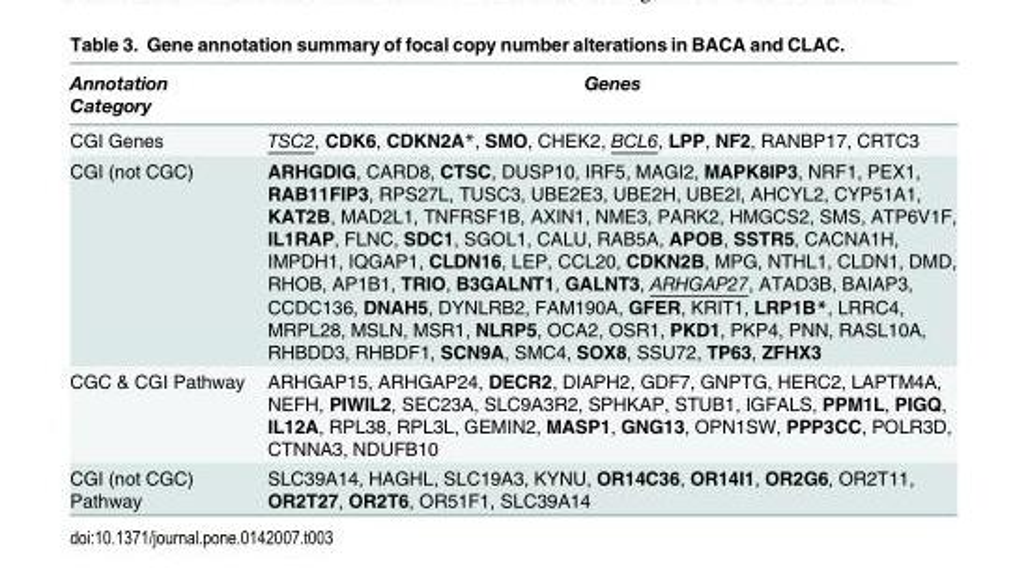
<table><thead><tr><td>Annotation Category</td><td>Genes</td></tr></thead><tbody><tr><td>CGI Genes</td><td>TSC2, CDK6, CDKN2A*, SMO, CHEK2, BCL6, LPP, NF2, RANBP17, CRTC3</td></tr><tr><td>CGI (not CGC)</td><td>ARHGDIG, CARD8, CTSC, DUSP10, IRF5, MAGI2, MAPK8IP3, NRF1, PEX1, RAB11FIP3, RPS27L, TUSC3, UBE2E3, UBE2H, UBE2I, AHCYL2, CYP51A1, KAT2B, MAD2L1, TNFRSF1B, AXIN1, NME3, PARK2, HMGCS2, SMS, ATP6V1F, IL1RAP, FLNC, SDC1, SGOL1, CALU, RAB5A, APOB, SSTR5, CACNA1H, IMPDH1, IQGAP1, CLDN16, LEP, CCL20, CDKN2B, MPG, NTHL1, CLDN1, DMD, RHOB, AP1B1, TRIO, B3GALNT1, GALNT3, ARHGAP27, ATAD3B, BAIAP3, CCDC136, DNAH5, DYNLRB2, FAM190A, GFER, KRIT1, LRP1B*, LRRC4, MRPL28, MSLN, MSR1, NLRP5, OCA2, OSR1, PKD1, PKP4, PNN, RASL10A, RHBDD3, RHBDF1, SCN9A, SMC4, SOX8, SSU72, TP63, ZFHX3</td></tr><tr><td>CGC &amp; CGI Pathway</td><td>ARHGAP15, ARHGAP24, DECR2, DIAPH2, GDF7, GNPTG, HERC2, LAPTM4A, NEFH, PIWIL2, SEC23A, SLC9A3R2, SPHKAP, STUB1, IGFALS, PPM1L, PIGQ, IL12A, RPL38, RPL3L, GEMIN2, MASP1, GNG13, OPN1SW, PPP3CC, POLR3D, CTNNA3, NDUFB10</td></tr><tr><td>CGI (not CGC) Pathway</td><td>SLC39A14, HAGHL, SLC19A3, KYNU, OR14C36, OR14I1, OR2G6, OR2T11, OR2T27, OR2T6, OR51F1, SLC39A14</td></tr></tbody></table>